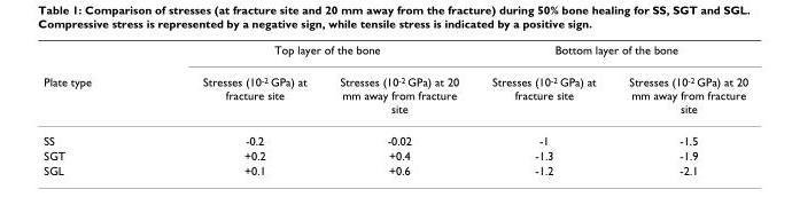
<table><thead><tr><td rowspan="2">Plate type</td><td colspan="2">Top layer of the bone</td><td colspan="2">Bottom layer of the bone</td></tr><tr><td>Stresses (10<sup>-2</sup> GPa) at fracture site</td><td>Stresses (10<sup>-2</sup> GPa) at 20 mm away from fracture site</td><td>Stresses (10<sup>-2</sup> GPa) at fracture site</td><td>Stresses (10<sup>-2</sup> GPa) at 20 mm away from fracture site</td></tr></thead><tbody><tr><td>SS</td><td>-0.2</td><td>-0.02</td><td>-1</td><td>-1.5</td></tr><tr><td>SGT</td><td>+0.2</td><td>+0.4</td><td>-1.3</td><td>-1.9</td></tr><tr><td>SGL</td><td>+0.1</td><td>+0.6</td><td>-1.2</td><td>-2.1</td></tr></tbody></table>